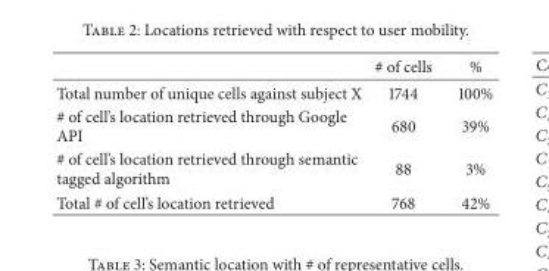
<table><thead><tr><td></td><td># of cells</td><td>%</td></tr></thead><tbody><tr><td>Total number of unique cells against subject X</td><td>1744</td><td>100%</td></tr><tr><td># of cell’s location retrieved through Google API</td><td>680</td><td>39%</td></tr><tr><td># of cell’s location retrieved through semantic tagged algorithm</td><td>88</td><td>3%</td></tr><tr><td>Total # of cell’s location retrieved</td><td>768</td><td>42%</td></tr></tbody></table>